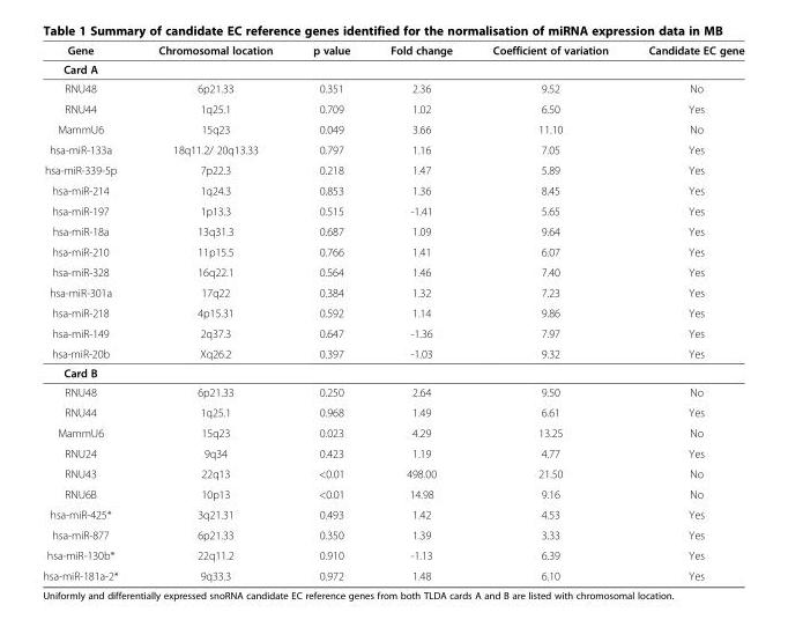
<table><thead><tr><td>Gene</td><td>Chromosomal location</td><td>p value</td><td>Fold change</td><td>Coefficient of variation</td><td>Candidate EC gene</td></tr></thead><tbody><tr><td colspan="6">Card A</td></tr><tr><td>RNU48</td><td>6p21.33</td><td>0.351</td><td>2.36</td><td>9.52</td><td>No</td></tr><tr><td>RNU44</td><td>1q25.1</td><td>0.709</td><td>1.02</td><td>6.50</td><td>Yes</td></tr><tr><td>MammU6</td><td>15q23</td><td>0.049</td><td>3.66</td><td>11.10</td><td>No</td></tr><tr><td>hsa-miR-133a</td><td>18q11.2/ 20q13.33</td><td>0.797</td><td>1.16</td><td>7.05</td><td>Yes</td></tr><tr><td>hsa-miR-339-5p</td><td>7p22.3</td><td>0.218</td><td>1.47</td><td>5.89</td><td>Yes</td></tr><tr><td>hsa-miR-214</td><td>1q24.3</td><td>0.853</td><td>1.36</td><td>8.45</td><td>Yes</td></tr><tr><td>hsa-miR-197</td><td>1p13.3</td><td>0.515</td><td>-1.41</td><td>5.65</td><td>Yes</td></tr><tr><td>hsa-miR-18a</td><td>13q31.3</td><td>0.687</td><td>1.09</td><td>9.64</td><td>Yes</td></tr><tr><td>hsa-miR-210</td><td>11p15.5</td><td>0.766</td><td>1.41</td><td>6.07</td><td>Yes</td></tr><tr><td>hsa-miR-328</td><td>16q22.1</td><td>0.564</td><td>1.46</td><td>7.40</td><td>Yes</td></tr><tr><td>hsa-miR-301a</td><td>17q22</td><td>0.384</td><td>1.32</td><td>7.23</td><td>Yes</td></tr><tr><td>hsa-miR-218</td><td>4p15.31</td><td>0.592</td><td>1.14</td><td>9.86</td><td>Yes</td></tr><tr><td>hsa-miR-149</td><td>2q37.3</td><td>0.647</td><td>-1.36</td><td>7.97</td><td>Yes</td></tr><tr><td>hsa-miR-20b</td><td>Xq26.2</td><td>0.397</td><td>-1.03</td><td>9.32</td><td>Yes</td></tr><tr><td colspan="6">Card B</td></tr><tr><td>RNU48</td><td>6p21.33</td><td>0.250</td><td>2.64</td><td>9.50</td><td>No</td></tr><tr><td>RNU44</td><td>1q25.1</td><td>0.968</td><td>1.49</td><td>6.61</td><td>Yes</td></tr><tr><td>MammU6</td><td>15q23</td><td>0.023</td><td>4.29</td><td>13.25</td><td>No</td></tr><tr><td>RNU24</td><td>9q34</td><td>0.423</td><td>1.19</td><td>4.77</td><td>Yes</td></tr><tr><td>RNU43</td><td>22q13</td><td>&lt;0.01</td><td>498.00</td><td>21.50</td><td>No</td></tr><tr><td>RNU6B</td><td>10p13</td><td>&lt;0.01</td><td>14.98</td><td>9.16</td><td>No</td></tr><tr><td>hsa-miR-425*</td><td>3q21.31</td><td>0.493</td><td>1.42</td><td>4.53</td><td>Yes</td></tr><tr><td>hsa-miR-877</td><td>6p21.33</td><td>0.350</td><td>1.39</td><td>3.33</td><td>Yes</td></tr><tr><td>hsa-miR-130b*</td><td>22q11.2</td><td>0.910</td><td>-1.13</td><td>6.39</td><td>Yes</td></tr><tr><td>hsa-miR-181a-2*</td><td>9q33.3</td><td>0.972</td><td>1.48</td><td>6.10</td><td>Yes</td></tr></tbody></table>